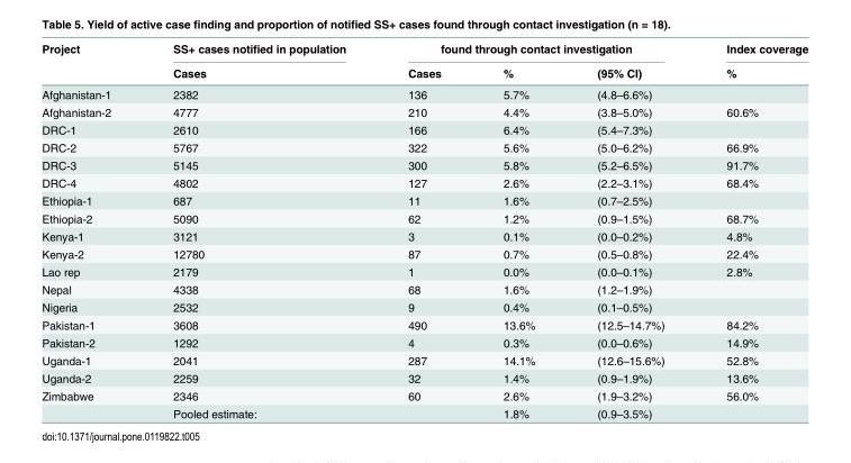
<table><thead><tr><td rowspan="2">Project</td><td rowspan="2">SS+ cases notified in population Cases</td><td colspan="3">found through contact investigation</td><td rowspan="2">Index coverage %</td></tr><tr><td>Cases</td><td>%</td><td>(95% CI)</td></tr></thead><tbody><tr><td>Afghanistan-1</td><td>2382</td><td>136</td><td>5.7%</td><td>(4.8–6.6%)</td><td></td></tr><tr><td>Afghanistan-2</td><td>4777</td><td>210</td><td>4.4%</td><td>(3.8–5.0%)</td><td>60.6%</td></tr><tr><td>DRC-1</td><td>2610</td><td>166</td><td>6.4%</td><td>(5.4–7.3%)</td><td></td></tr><tr><td>DRC-2</td><td>5767</td><td>322</td><td>5.6%</td><td>(5.0–6.2%)</td><td>66.9%</td></tr><tr><td>DRC-3</td><td>5145</td><td>300</td><td>5.8%</td><td>(5.2–6.5%)</td><td>91.7%</td></tr><tr><td>DRC-4</td><td>4802</td><td>127</td><td>2.6%</td><td>(2.2–3.1%)</td><td>68.4%</td></tr><tr><td>Ethiopia-1</td><td>687</td><td>11</td><td>1.6%</td><td>(0.7–2.5%)</td><td></td></tr><tr><td>Ethiopia-2</td><td>5090</td><td>62</td><td>1.2%</td><td>(0.9–1.5%)</td><td>68.7%</td></tr><tr><td>Kenya-1</td><td>3121</td><td>3</td><td>0.1%</td><td>(0.0–0.2%)</td><td>4.8%</td></tr><tr><td>Kenya-2</td><td>12780</td><td>87</td><td>0.7%</td><td>(0.5–0.8%)</td><td>22.4%</td></tr><tr><td>Lao rep</td><td>2179</td><td>1</td><td>0.0%</td><td>(0.0–0.1%)</td><td>2.8%</td></tr><tr><td>Nepal</td><td>4338</td><td>68</td><td>1.6%</td><td>(1.2–1.9%)</td><td></td></tr><tr><td>Nigeria</td><td>2532</td><td>9</td><td>0.4%</td><td>(0.1–0.5%)</td><td></td></tr><tr><td>Pakistan-1</td><td>3608</td><td>490</td><td>13.6%</td><td>(12.5–14.7%)</td><td>84.2%</td></tr><tr><td>Pakistan-2</td><td>1292</td><td>4</td><td>0.3%</td><td>(0.0–0.6%)</td><td>14.9%</td></tr><tr><td>Uganda-1</td><td>2041</td><td>287</td><td>14.1%</td><td>(12.6–15.6%)</td><td>52.8%</td></tr><tr><td>Uganda-2</td><td>2259</td><td>32</td><td>1.4%</td><td>(0.9–1.9%)</td><td>13.6%</td></tr><tr><td rowspan="2">Zimbabwe</td><td>2346</td><td>60</td><td>2.6%</td><td>(1.9–3.2%)</td><td>56.0%</td></tr><tr><td colspan="2">Pooled estimate:</td><td>1.8%</td><td>(0.9–3.5%)</td><td></td></tr></tbody></table>